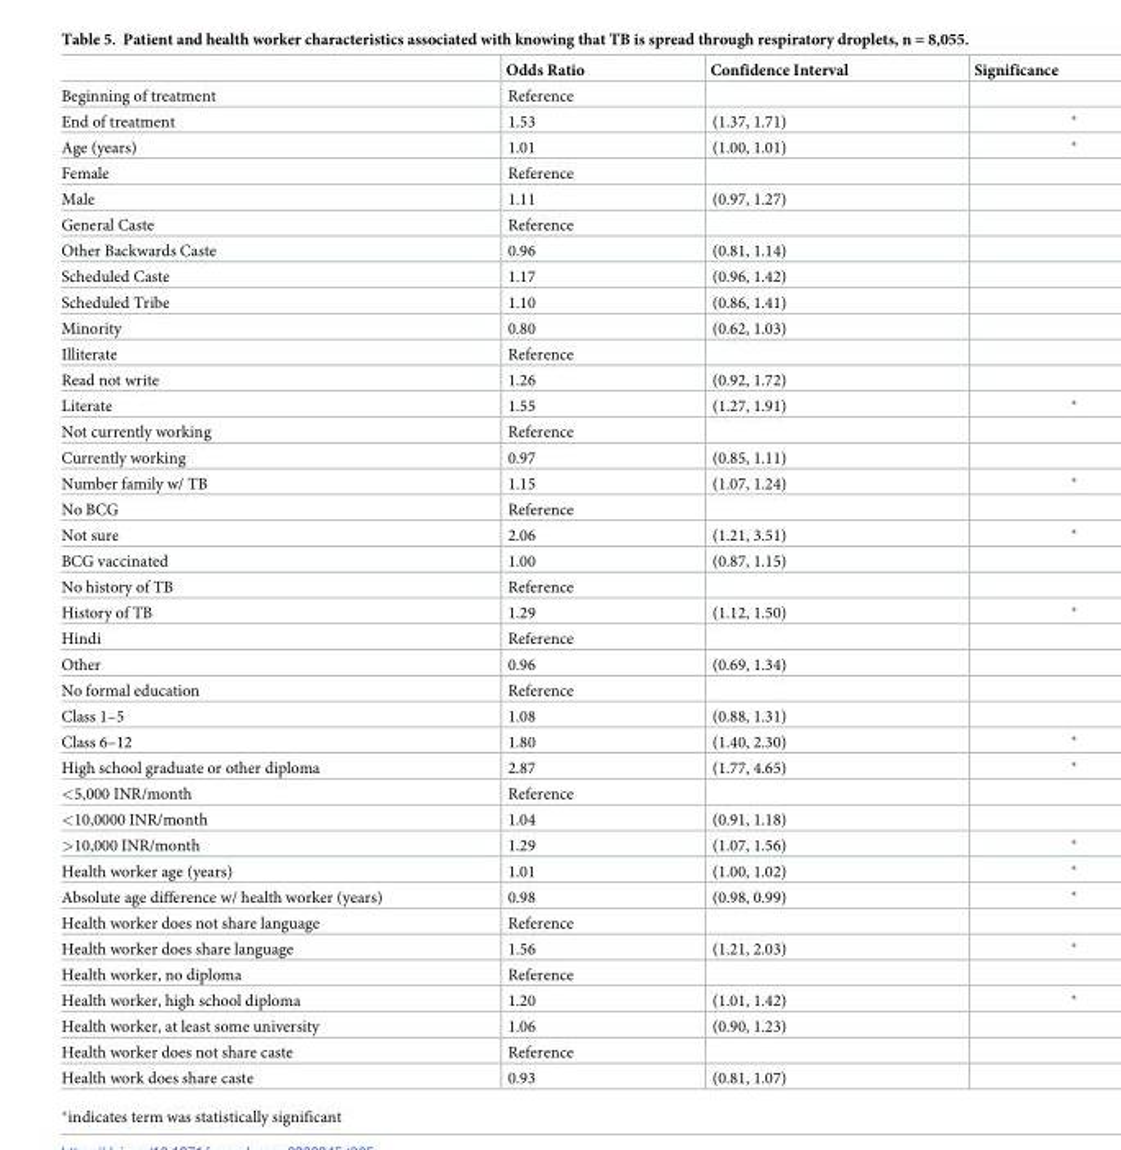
<table><thead><tr><td></td><td>Odds Ratio</td><td>Confidence Interval</td><td>Significance</td></tr></thead><tbody><tr><td>Beginning of treatment</td><td>Reference</td><td></td><td></td></tr><tr><td>End of treatment</td><td>1.53</td><td>(1.37, 1.71)</td><td></td></tr><tr><td>Age (years)</td><td>1.01</td><td>(1.00, 1.01)</td><td></td></tr><tr><td>Female</td><td>Reference</td><td></td><td></td></tr><tr><td>Male</td><td>1.11</td><td>(0.97, 1.27)</td><td></td></tr><tr><td>General Caste</td><td>Reference</td><td></td><td></td></tr><tr><td>Other Backwards Caste</td><td>0.96</td><td>(0.81, 1.14)</td><td></td></tr><tr><td>Scheduled Caste</td><td>1.17</td><td>(0.96, 1.42)</td><td></td></tr><tr><td>Scheduled Tribe</td><td>1.10</td><td>(0.86, 1.41)</td><td></td></tr><tr><td>Minority</td><td>0.80</td><td>(0.62, 1.03)</td><td></td></tr><tr><td>Illiterate</td><td>Reference</td><td></td><td></td></tr><tr><td>Read not write</td><td>1.26</td><td>(0.92, 1.72)</td><td></td></tr><tr><td>Literate</td><td>1.55</td><td>(1.27, 1.91)</td><td></td></tr><tr><td>Not currently working</td><td>Reference</td><td></td><td></td></tr><tr><td>Currently working</td><td>0.97</td><td>(0.85, 1.11)</td><td></td></tr><tr><td>Number family w/ TB</td><td>1.15</td><td>(1.07, 1.24)</td><td></td></tr><tr><td>No BCG</td><td>Reference</td><td></td><td></td></tr><tr><td>Not sure</td><td>2.06</td><td>(1.21, 3.51)</td><td></td></tr><tr><td>BCG vaccinated</td><td>1.00</td><td>(0.87, 1.15)</td><td></td></tr><tr><td>No history of TB</td><td>Reference</td><td></td><td></td></tr><tr><td>History of TB</td><td>1.29</td><td>(1.12, 1.50)</td><td></td></tr><tr><td>Hindi</td><td>Reference</td><td></td><td></td></tr><tr><td>Other</td><td>0.96</td><td>(0.69, 1.34)</td><td></td></tr><tr><td>No formal education</td><td>Reference</td><td></td><td></td></tr><tr><td>Class 1–5</td><td>1.08</td><td>(0.88, 1.31)</td><td></td></tr><tr><td>Class 6–12</td><td>1.80</td><td>(1.40, 2.30)</td><td></td></tr><tr><td>High school graduate or other diploma</td><td>2.87</td><td>(1.77, 4.65)</td><td></td></tr><tr><td>&lt;5,000 INR/month</td><td>Reference</td><td></td><td></td></tr><tr><td>&lt;10,0000 INR/month</td><td>1.04</td><td>(0.91, 1.18)</td><td></td></tr><tr><td>&gt;10,000 INR/month</td><td>1.29</td><td>(1.07, 1.56)</td><td></td></tr><tr><td>Health worker age (years)</td><td>1.01</td><td>(1.00, 1.02)</td><td></td></tr><tr><td>Absolute age difference w/ health worker (years)</td><td>0.98</td><td>(0.98, 0.99)</td><td></td></tr><tr><td>Health worker does not share language</td><td>Reference</td><td></td><td></td></tr><tr><td>Health worker does share language</td><td>1.56</td><td>(1.21, 2.03)</td><td></td></tr><tr><td>Health worker, no diploma</td><td>Reference</td><td></td><td></td></tr><tr><td>Health worker, high school diploma</td><td>1.20</td><td>(1.01, 1.42)</td><td></td></tr><tr><td>Health worker, at least some university</td><td>1.06</td><td>(0.90, 1.23)</td><td></td></tr><tr><td>Health worker does not share caste</td><td>Reference</td><td></td><td></td></tr><tr><td>Health work does share caste</td><td>0.93</td><td>(0.81, 1.07)</td><td></td></tr></tbody></table>